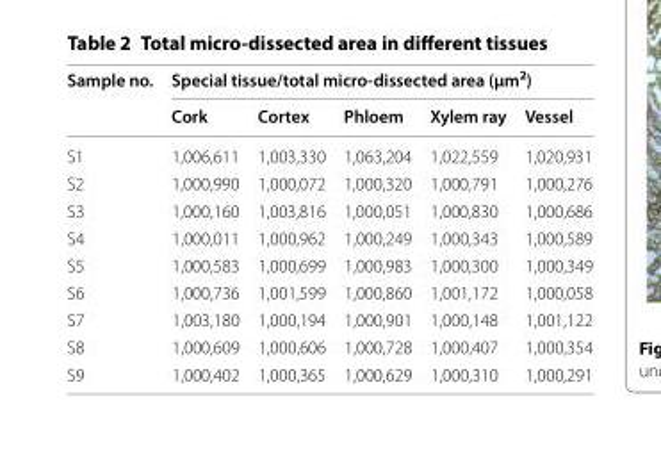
<table><thead><tr><td rowspan="2">Sample no.</td><td colspan="5">Special tissue/total micro‑dissected area (μm<sup>2</sup>)</td></tr><tr><td>Cork</td><td>Cortex</td><td>Phloem</td><td>Xylem ray</td><td>Vessel</td></tr></thead><tbody><tr><td>S1</td><td>1,006,611</td><td>1,003,330</td><td>1,063,204</td><td>1,022,559</td><td>1,020,931</td></tr><tr><td>S2</td><td>1,000,990</td><td>1,000,072</td><td>1,000,320</td><td>1,000,791</td><td>1,000,276</td></tr><tr><td>S3</td><td>1,000,160</td><td>1,003,816</td><td>1,000,051</td><td>1,000,830</td><td>1,000,686</td></tr><tr><td>S4</td><td>1,000,011</td><td>1,000,962</td><td>1,000,249</td><td>1,000,343</td><td>1,000,589</td></tr><tr><td>S5</td><td>1,000,583</td><td>1,000,699</td><td>1,000,983</td><td>1,000,300</td><td>1,000,349</td></tr><tr><td>S6</td><td>1,000,736</td><td>1,001,599</td><td>1,000,860</td><td>1,001,172</td><td>1,000,058</td></tr><tr><td>S7</td><td>1,003,180</td><td>1,000,194</td><td>1,000,901</td><td>1,000,148</td><td>1,001,122</td></tr><tr><td>S8</td><td>1,000,609</td><td>1,000,606</td><td>1,000,728</td><td>1,000,407</td><td>1,000,354</td></tr><tr><td>S9</td><td>1,000,402</td><td>1,000,365</td><td>1,000,629</td><td>1,000,310</td><td>1,000,291</td></tr></tbody></table>